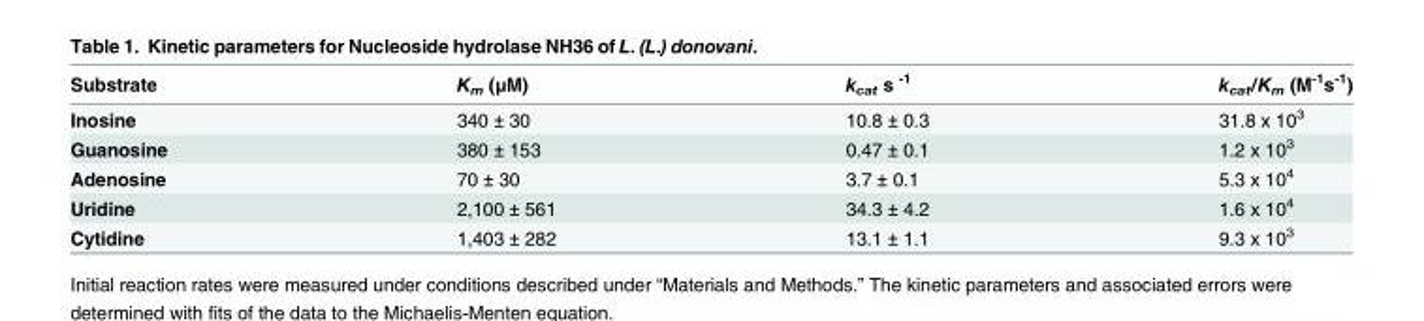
<table><thead><tr><td>Substrate</td><td>K<sub>m</sub> (μM)</td><td>k<sub>cat</sub> s <sup>-1</sup></td><td>k<sub>cat</sub>/K<sub>m</sub> (M<sup>-1</sup>s<sup>-1</sup>)</td></tr></thead><tbody><tr><td>Inosine</td><td>340 ± 30</td><td>10.8 ± 0.3</td><td>31.8 x 10<sup>3</sup></td></tr><tr><td>Guanosine</td><td>380 ± 153</td><td>0.47 ± 0.1</td><td>1.2 x 10<sup>3</sup></td></tr><tr><td>Adenosine</td><td>70 ± 30</td><td>3.7 ± 0.1</td><td>5.3 x 10<sup>4</sup></td></tr><tr><td>Uridine</td><td>2,100 ± 561</td><td>34.3 ± 4.2</td><td>1.6 x 10<sup>4</sup></td></tr><tr><td>Cytidine</td><td>1,403 ± 282</td><td>13.1 ± 1.1</td><td>9.3 x 10<sup>3</sup></td></tr></tbody></table>